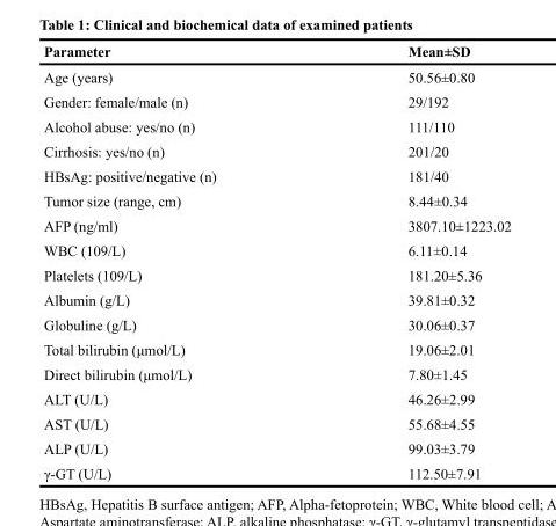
<table><thead><tr><td>Parameter</td><td>Mean±SD</td></tr></thead><tbody><tr><td>Age (years)</td><td>50.56±0.80</td></tr><tr><td>Gender: female/male (n)</td><td>29/192</td></tr><tr><td>Alcohol abuse: yes/no (n)</td><td>111/110</td></tr><tr><td>Cirrhosis: yes/no (n)</td><td>201/20</td></tr><tr><td>HBsAg: positive/negative (n)</td><td>181/40</td></tr><tr><td>Tumor size (range, cm)</td><td>8.44±0.34</td></tr><tr><td>AFP (ng/ml)</td><td>3807.10±1223.02</td></tr><tr><td>WBC (109/L)</td><td>6.11±0.14</td></tr><tr><td>Platelets (109/L)</td><td>181.20±5.36</td></tr><tr><td>Albumin (g/L)</td><td>39.81±0.32</td></tr><tr><td>Globuline (g/L)</td><td>30.06±0.37</td></tr><tr><td>Total bilirubin (μmol/L)</td><td>19.06±2.01</td></tr><tr><td>Direct bilirubin (μmol/L)</td><td>7.80±1.45</td></tr><tr><td>ALT (U/L)</td><td>46.26±2.99</td></tr><tr><td>AST (U/L)</td><td>55.68±4.55</td></tr><tr><td>ALP (U/L)</td><td>99.03±3.79</td></tr><tr><td>γ-GT (U/L)</td><td>112.50±7.91</td></tr></tbody></table>